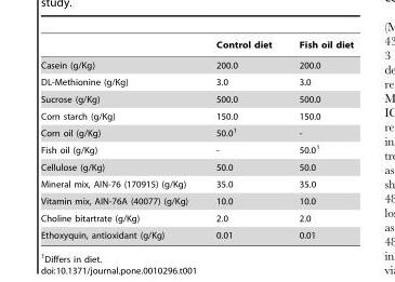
<table><thead><tr><td></td><td>Control diet</td><td>Fish oil diet</td></tr></thead><tbody><tr><td>Casein (g/Kg)</td><td>200.0</td><td>200.0</td></tr><tr><td>DL-Methionine (g/Kg)</td><td>3.0</td><td>3.0</td></tr><tr><td>Sucrose (g/Kg)</td><td>500.0</td><td>500.0</td></tr><tr><td>Corn starch (g/Kg)</td><td>150.0</td><td>150.0</td></tr><tr><td>Corn oil (g/Kg)</td><td>50.0<sup>1</sup></td><td>-</td></tr><tr><td>Fish oil (g/Kg)</td><td>-</td><td>50.0<sup>1</sup></td></tr><tr><td>Cellulose (g/Kg)</td><td>50.0</td><td>50.0</td></tr><tr><td>Mineral mix, AIN-76 (170915) (g/Kg)</td><td>35.0</td><td>35.0</td></tr><tr><td>Vitamin mix, AIN-76A (40077) (g/Kg)</td><td>10.0</td><td>10.0</td></tr><tr><td>Choline bitartrate (g/Kg)</td><td>2.0</td><td>2.0</td></tr><tr><td>Ethoxyquin, antioxidant (g/Kg)</td><td>0.01</td><td>0.01</td></tr></tbody></table>